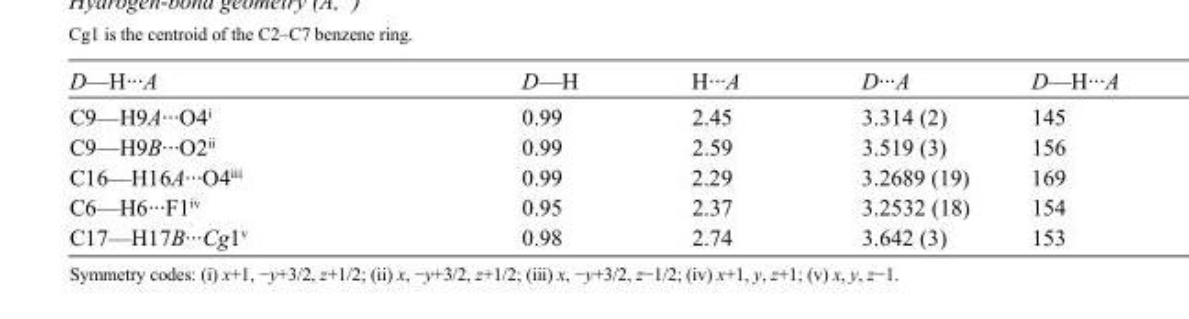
<table><tbody><tr><td>D—H···A</td><td>D—H</td><td>H···A</td><td>D···A</td><td>D—H···A</td></tr><tr><td>C9—H9A···O4<sup>i</sup></td><td>0.99</td><td>2.45</td><td>3.314 (2)</td><td>145</td></tr><tr><td>C9—H9B···O2<sup>ii</sup></td><td>0.99</td><td>2.59</td><td>3.519 (3)</td><td>156</td></tr><tr><td>C16—H16A···O4<sup>iii</sup></td><td>0.99</td><td>2.29</td><td>3.2689 (19)</td><td>169</td></tr><tr><td>C6—H6···F1<sup>iv</sup></td><td>0.95</td><td>2.37</td><td>3.2532 (18)</td><td>154</td></tr><tr><td>C17—H17B···Cg1<sup>v</sup></td><td>0.98</td><td>2.74</td><td>3.642 (3)</td><td>153</td></tr></tbody></table>